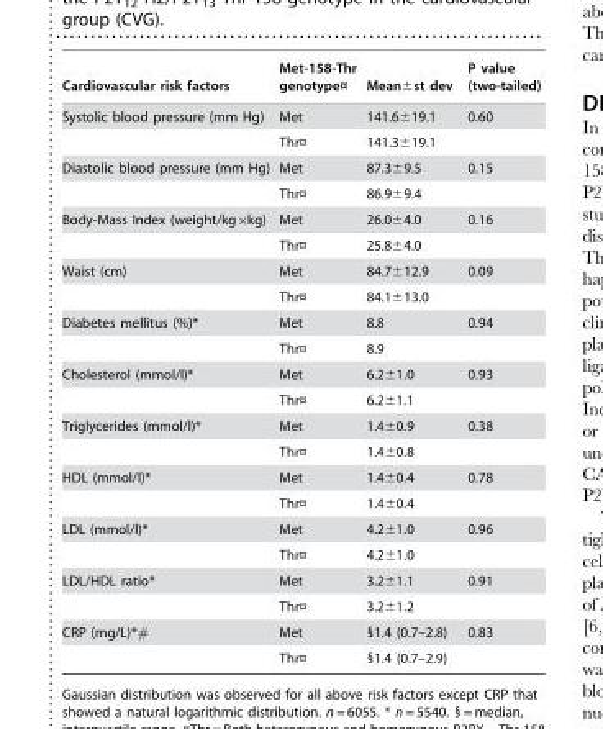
<table><thead><tr><td>Cardiovascular risk factors</td><td>Met-158-Thr genotype¤</td><td>Mean±st dev</td><td>P value (two-tailed)</td></tr></thead><tbody><tr><td rowspan="2">Systolic blood pressure (mm Hg)</td><td>Met</td><td>141.6±19.1</td><td>0.60</td></tr><tr><td>Thr¤</td><td>141.3±19.1</td><td></td></tr><tr><td rowspan="2">Diastolic blood pressure (mm Hg)</td><td>Met</td><td>87.3±9.5</td><td>0.15</td></tr><tr><td>Thr¤</td><td>86.9±9.4</td><td></td></tr><tr><td rowspan="2">Body-Mass Index (weight/kg×kg)</td><td>Met</td><td>26.0±4.0</td><td>0.16</td></tr><tr><td>Thr¤</td><td>25.8±4.0</td><td></td></tr><tr><td rowspan="2">Waist (cm)</td><td>Met</td><td>84.7±12.9</td><td>0.09</td></tr><tr><td>Thr¤</td><td>84.1±13.0</td><td></td></tr><tr><td rowspan="2">Diabetes mellitus (%)*</td><td>Met</td><td>8.8</td><td>0.94</td></tr><tr><td>Thr¤</td><td>8.9</td><td></td></tr><tr><td rowspan="2">Cholesterol (mmol/l)*</td><td>Met</td><td>6.2±1.0</td><td>0.93</td></tr><tr><td>Thr¤</td><td>6.2±1.1</td><td></td></tr><tr><td rowspan="2">Triglycerides (mmol/l)*</td><td>Met</td><td>1.4±0.9</td><td>0.38</td></tr><tr><td>Thr¤</td><td>1.4±0.8</td><td></td></tr><tr><td rowspan="2">HDL (mmol/l)*</td><td>Met</td><td>1.4±0.4</td><td>0.78</td></tr><tr><td>Thr¤</td><td>1.4±0.4</td><td></td></tr><tr><td rowspan="2">LDL (mmol/l)*</td><td>Met</td><td>4.2±1.0</td><td>0.96</td></tr><tr><td>Thr¤</td><td>4.2±1.0</td><td></td></tr><tr><td rowspan="2">LDL/HDL ratio*</td><td>Met</td><td>3.2±1.1</td><td>0.91</td></tr><tr><td>Thr¤</td><td>3.2±1.2</td><td></td></tr><tr><td rowspan="2">CRP (mg/L)*#</td><td>Met</td><td>§1.4 (0.7–2.8)</td><td>0.83</td></tr><tr><td>Thr¤</td><td>§1.4 (0.7–2.9)</td><td></td></tr></tbody></table>